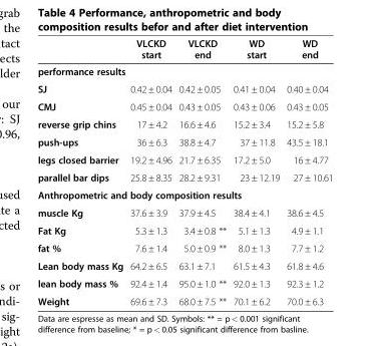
<table><thead><tr><td></td><td>VLCKD start</td><td>VLCKD end</td><td>WD start</td><td>WD end</td></tr></thead><tbody><tr><td colspan="5">performance results</td></tr><tr><td>SJ</td><td>0.42 ± 0.04</td><td>0.42 ± 0.05</td><td>0.41 ± 0.04</td><td>0.40 ± 0.04</td></tr><tr><td>CMJ</td><td>0.45 ± 0.04</td><td>0.43 ± 0.05</td><td>0.43 ± 0.06</td><td>0.43 ± 0.05</td></tr><tr><td>reverse grip chins</td><td>17 ± 4.2</td><td>16.6 ± 4.6</td><td>15.2 ± 3.4</td><td>15.2 ± 5.8</td></tr><tr><td>push-ups</td><td>36 ± 6.3</td><td>38.8 ± 4.7</td><td>37 ± 11.8</td><td>43.5 ± 18.1</td></tr><tr><td>legs closed barrier</td><td>19.2 ± 4.96</td><td>21.7 ± 6.35</td><td>17.2 ± 5.0</td><td>16 ± 4.77</td></tr><tr><td>parallel bar dips</td><td>25.8 ± 8.35</td><td>28.2 ± 9.31</td><td>23 ± 12.19</td><td>27 ± 10.61</td></tr><tr><td colspan="5">Anthropometric and body composition results</td></tr><tr><td>muscle Kg</td><td>37.6 ± 3.9</td><td>37.9 ± 4.5</td><td>38.4 ± 4.1</td><td>38.6 ± 4.5</td></tr><tr><td>Fat Kg</td><td>5.3 ± 1.3</td><td>3.4 ± 0.8 **</td><td>5.1 ± 1.3</td><td>4.9 ± 1.1</td></tr><tr><td>fat %</td><td>7.6 ± 1.4</td><td>5.0 ± 0.9 **</td><td>8.0 ± 1.3</td><td>7.7 ± 1.2</td></tr><tr><td>Lean body mass Kg</td><td>64.2 ± 6.5</td><td>63.1 ± 7.1</td><td>61.5 ± 4.3</td><td>61.8 ± 4.6</td></tr><tr><td>lean body mass %</td><td>92.4 ± 1.4</td><td>95.0 ± 1.0 **</td><td>92.0 ± 1.3</td><td>92.3 ± 1.2</td></tr><tr><td>Weight</td><td>69.6 ± 7.3</td><td>68.0 ± 7.5 **</td><td>70.1 ± 6.2</td><td>70.0 ± 6.3</td></tr></tbody></table>